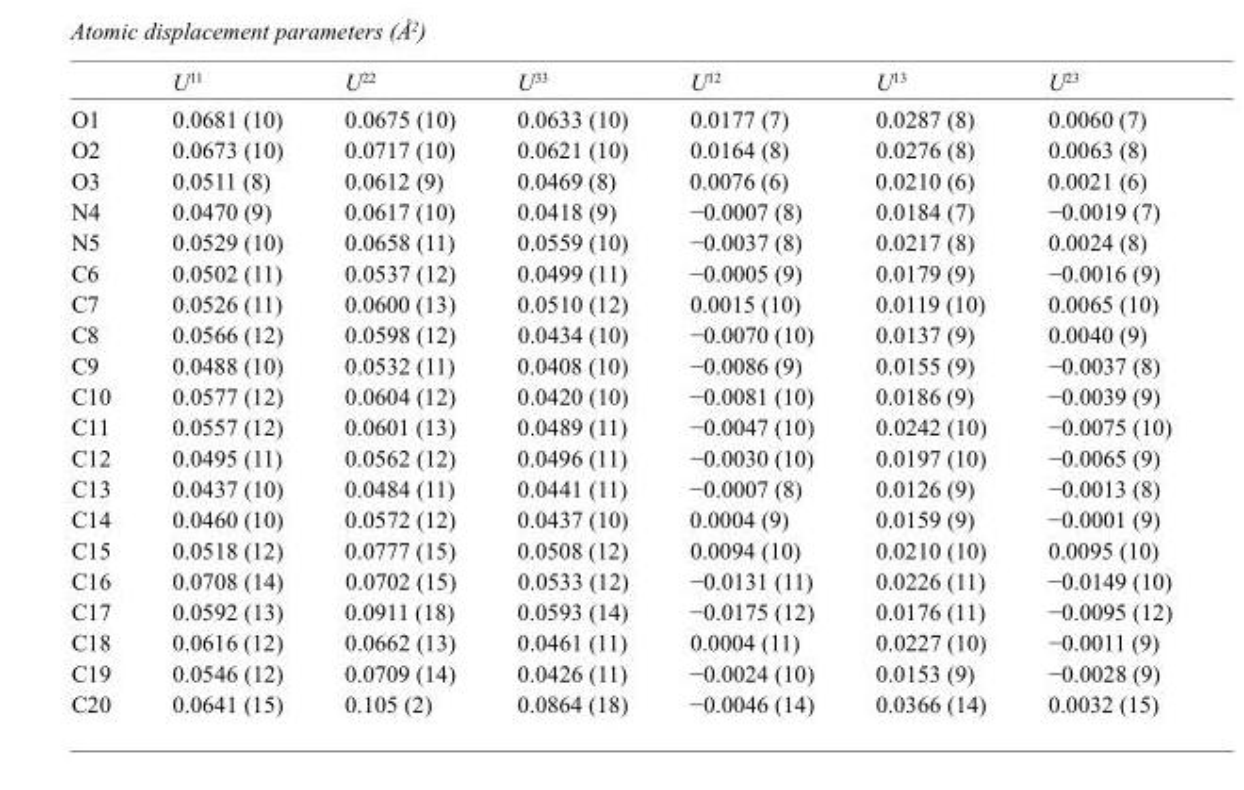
<table><thead><tr><td></td><td>U<sup>11</sup></td><td>U<sup>22</sup></td><td>U<sup>33</sup></td><td>U<sup>12</sup></td><td>U<sup>13</sup></td><td>U<sup>23</sup></td></tr></thead><tbody><tr><td>O1</td><td>0.0681 (10)</td><td>0.0675 (10)</td><td>0.0633 (10)</td><td>0.0177 (7)</td><td>0.0287 (8)</td><td>0.0060 (7)</td></tr><tr><td>O2</td><td>0.0673 (10)</td><td>0.0717 (10)</td><td>0.0621 (10)</td><td>0.0164 (8)</td><td>0.0276 (8)</td><td>0.0063 (8)</td></tr><tr><td>O3</td><td>0.0511 (8)</td><td>0.0612 (9)</td><td>0.0469 (8)</td><td>0.0076 (6)</td><td>0.0210 (6)</td><td>0.0021 (6)</td></tr><tr><td>N4</td><td>0.0470 (9)</td><td>0.0617 (10)</td><td>0.0418 (9)</td><td>−0.0007 (8)</td><td>0.0184 (7)</td><td>−0.0019 (7)</td></tr><tr><td>N5</td><td>0.0529 (10)</td><td>0.0658 (11)</td><td>0.0559 (10)</td><td>−0.0037 (8)</td><td>0.0217 (8)</td><td>0.0024 (8)</td></tr><tr><td>C6</td><td>0.0502 (11)</td><td>0.0537 (12)</td><td>0.0499 (11)</td><td>−0.0005 (9)</td><td>0.0179 (9)</td><td>−0.0016 (9)</td></tr><tr><td>C7</td><td>0.0526 (11)</td><td>0.0600 (13)</td><td>0.0510 (12)</td><td>0.0015 (10)</td><td>0.0119 (10)</td><td>0.0065 (10)</td></tr><tr><td>C8</td><td>0.0566 (12)</td><td>0.0598 (12)</td><td>0.0434 (10)</td><td>−0.0070 (10)</td><td>0.0137 (9)</td><td>0.0040 (9)</td></tr><tr><td>C9</td><td>0.0488 (10)</td><td>0.0532 (11)</td><td>0.0408 (10)</td><td>−0.0086 (9)</td><td>0.0155 (9)</td><td>−0.0037 (8)</td></tr><tr><td>C10</td><td>0.0577 (12)</td><td>0.0604 (12)</td><td>0.0420 (10)</td><td>−0.0081 (10)</td><td>0.0186 (9)</td><td>−0.0039 (9)</td></tr><tr><td>C11</td><td>0.0557 (12)</td><td>0.0601 (13)</td><td>0.0489 (11)</td><td>−0.0047 (10)</td><td>0.0242 (10)</td><td>−0.0075 (10)</td></tr><tr><td>C12</td><td>0.0495 (11)</td><td>0.0562 (12)</td><td>0.0496 (11)</td><td>−0.0030 (10)</td><td>0.0197 (10)</td><td>−0.0065 (9)</td></tr><tr><td>C13</td><td>0.0437 (10)</td><td>0.0484 (11)</td><td>0.0441 (11)</td><td>−0.0007 (8)</td><td>0.0126 (9)</td><td>−0.0013 (8)</td></tr><tr><td>C14</td><td>0.0460 (10)</td><td>0.0572 (12)</td><td>0.0437 (10)</td><td>0.0004 (9)</td><td>0.0159 (9)</td><td>−0.0001 (9)</td></tr><tr><td>C15</td><td>0.0518 (12)</td><td>0.0777 (15)</td><td>0.0508 (12)</td><td>0.0094 (10)</td><td>0.0210 (10)</td><td>0.0095 (10)</td></tr><tr><td>C16</td><td>0.0708 (14)</td><td>0.0702 (15)</td><td>0.0533 (12)</td><td>−0.0131 (11)</td><td>0.0226 (11)</td><td>−0.0149 (10)</td></tr><tr><td>C17</td><td>0.0592 (13)</td><td>0.0911 (18)</td><td>0.0593 (14)</td><td>−0.0175 (12)</td><td>0.0176 (11)</td><td>−0.0095 (12)</td></tr><tr><td>C18</td><td>0.0616 (12)</td><td>0.0662 (13)</td><td>0.0461 (11)</td><td>0.0004 (11)</td><td>0.0227 (10)</td><td>−0.0011 (9)</td></tr><tr><td>C19</td><td>0.0546 (12)</td><td>0.0709 (14)</td><td>0.0426 (11)</td><td>−0.0024 (10)</td><td>0.0153 (9)</td><td>−0.0028 (9)</td></tr><tr><td>C20</td><td>0.0641 (15)</td><td>0.105 (2)</td><td>0.0864 (18)</td><td>−0.0046 (14)</td><td>0.0366 (14)</td><td>0.0032 (15)</td></tr></tbody></table>